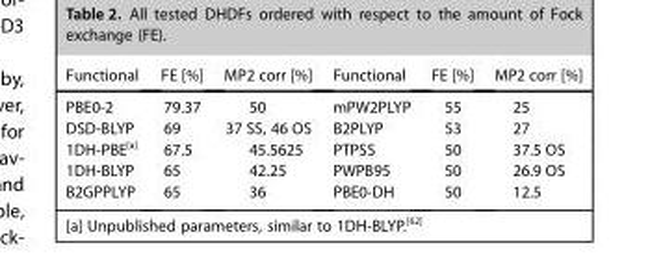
<table><thead><tr><td>Functional</td><td>FE [%]</td><td>MP2 corr [%]</td><td>Functional</td><td>FE [%]</td><td>MP2 corr [%]</td></tr></thead><tbody><tr><td>PBE0-2</td><td>79.37</td><td>50</td><td>mPW2PLYP</td><td>55</td><td>25</td></tr><tr><td>DSD-BLYP</td><td>69</td><td>37 SS, 46 OS</td><td>B2PLYP</td><td>53</td><td>27</td></tr><tr><td>1DH-PBE<sup>[a]</sup></td><td>67.5</td><td>45.5625</td><td>PTPSS</td><td>50</td><td>37.5 OS</td></tr><tr><td>1DH-BLYP</td><td>65</td><td>42.25</td><td>PWPB95</td><td>50</td><td>26.9 OS</td></tr><tr><td>B2GPPLYP</td><td>65</td><td>36</td><td>PBE0-DH</td><td>50</td><td>12.5</td></tr></tbody></table>